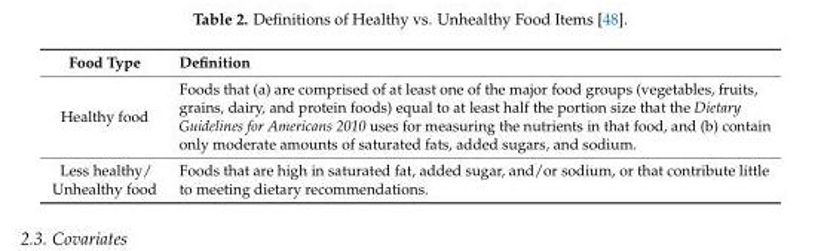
<table><thead><tr><td>Food Type</td><td>Definition</td></tr></thead><tbody><tr><td>Healthy food</td><td>Foods that (a) are comprised of at least one of the major food groups (vegetables, fruits, grains, dairy, and protein foods) equal to at least half the portion size that the Dietary Guidelines for Americans 2010 uses for measuring the nutrients in that food, and (b) contain only moderate amounts of saturated fats, added sugars, and sodium.</td></tr><tr><td>Less healthy/ Unhealthy food</td><td>Foods that are high in saturated fat, added sugar, and/or sodium, or that contribute little to meeting dietary recommendations.</td></tr></tbody></table>